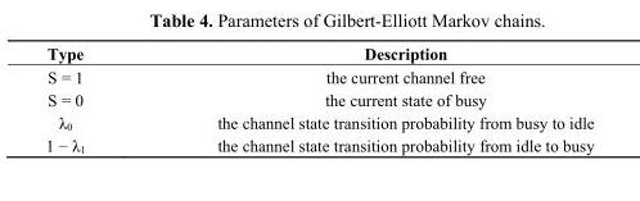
<table><thead><tr><td>Type</td><td>Description</td></tr></thead><tbody><tr><td>S = 1</td><td>the current channel free</td></tr><tr><td>S = 0</td><td>the current state of busy</td></tr><tr><td>λ<sub>0</sub></td><td>the channel state transition probability from busy to idle</td></tr><tr><td>1 − λ<sub>1</sub></td><td>the channel state transition probability from idle to busy</td></tr></tbody></table>